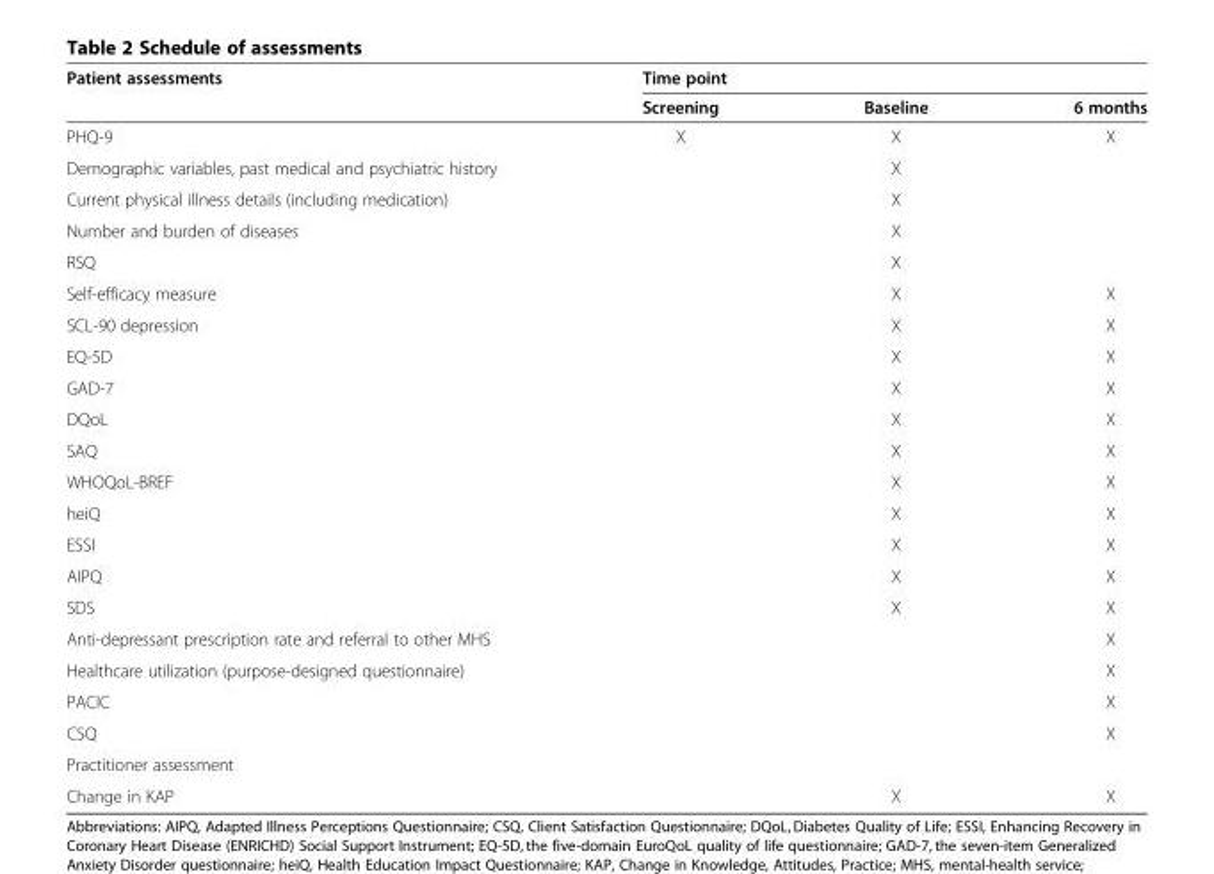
<table><thead><tr><td rowspan="2">Patient assessments</td><td rowspan="2">Time point Screening</td><td rowspan="2">Baseline</td><td rowspan="2">6 months</td></tr><tr></tr></thead><tbody><tr><td>PHQ-9</td><td>X</td><td>X</td><td>X</td></tr><tr><td>Demographic variables, past medical and psychiatric history</td><td></td><td>X</td><td></td></tr><tr><td>Current physical illness details (including medication)</td><td></td><td>X</td><td></td></tr><tr><td>Number and burden of diseases</td><td></td><td>X</td><td></td></tr><tr><td>RSQ</td><td></td><td>X</td><td></td></tr><tr><td>Self-efficacy measure</td><td></td><td>X</td><td>X</td></tr><tr><td>SCL-90 depression</td><td></td><td>X</td><td>X</td></tr><tr><td>EQ-5D</td><td></td><td>X</td><td>X</td></tr><tr><td>GAD-7</td><td></td><td>X</td><td>X</td></tr><tr><td>DQoL</td><td></td><td>X</td><td>X</td></tr><tr><td>SAQ</td><td></td><td>X</td><td>X</td></tr><tr><td>WHOQoL-BREF</td><td></td><td>X</td><td>X</td></tr><tr><td>heiQ</td><td></td><td>X</td><td>X</td></tr><tr><td>ESSI</td><td></td><td>X</td><td>X</td></tr><tr><td>AIPQ</td><td></td><td>X</td><td>X</td></tr><tr><td>SDS</td><td></td><td>X</td><td>X</td></tr><tr><td>Anti-depressant prescription rate and referral to other MHS</td><td></td><td></td><td>X</td></tr><tr><td>Healthcare utilization (purpose-designed questionnaire)</td><td></td><td></td><td>X</td></tr><tr><td>PACIC</td><td></td><td></td><td>X</td></tr><tr><td>CSQ</td><td></td><td></td><td>X</td></tr><tr><td colspan="4">Practitioner assessment</td></tr><tr><td>Change in KAP</td><td></td><td>X</td><td>X</td></tr></tbody></table>